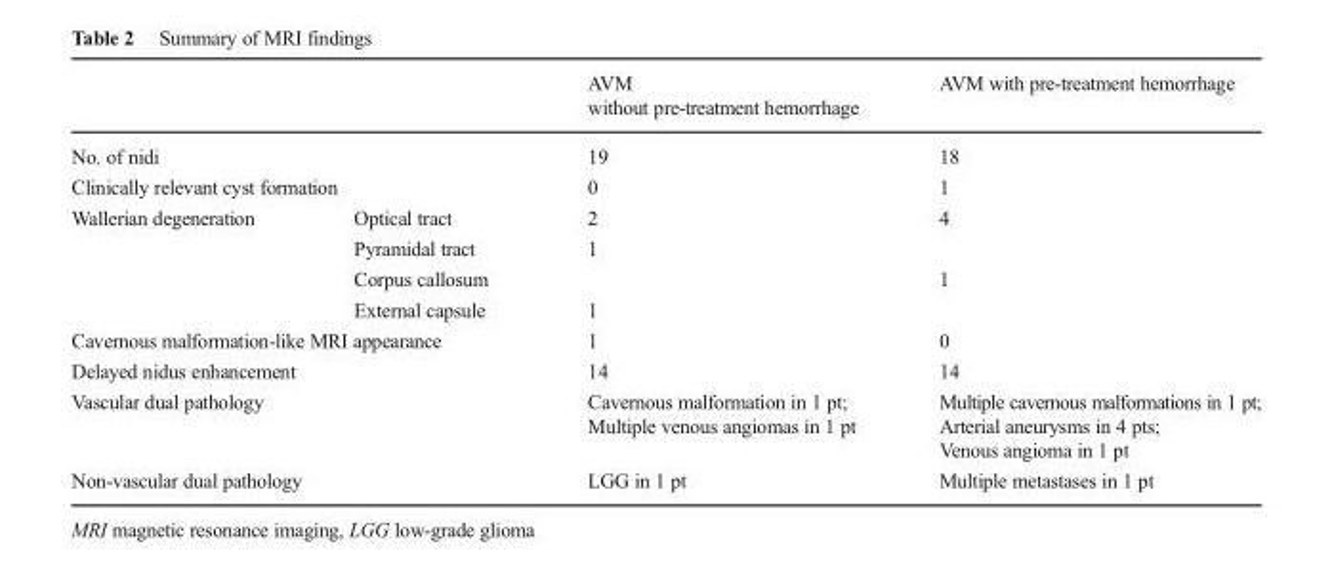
<table><thead><tr><td></td><td></td><td>AVM without pre-treatment hemorrhage</td><td>AVM with pre-treatment hemorrhage</td></tr></thead><tbody><tr><td colspan="2">No. of nidi</td><td>19</td><td>18</td></tr><tr><td colspan="2">Clinically relevant cyst formation</td><td>0</td><td>1</td></tr><tr><td rowspan="4">Wallerian degeneration</td><td>Optical tract</td><td>2</td><td>4</td></tr><tr><td>Pyramidal tract</td><td>1</td><td></td></tr><tr><td>Corpus callosum</td><td></td><td>1</td></tr><tr><td>External capsule</td><td>1</td><td></td></tr><tr><td colspan="2">Cavernous malformation-like MRI appearance</td><td>1</td><td>0</td></tr><tr><td colspan="2">Delayed nidus enhancement</td><td>14</td><td>14</td></tr><tr><td colspan="2">Vascular dual pathology</td><td>Cavernous malformation in 1 pt; Multiple venous angiomas in 1 pt</td><td>Multiple cavernous malformations in 1 pt; Arterial aneurysms in 4 pts; Venous angioma in 1 pt</td></tr><tr><td colspan="2">Non-vascular dual pathology</td><td>LGG in 1 pt</td><td>Multiple metastases in 1 pt</td></tr></tbody></table>